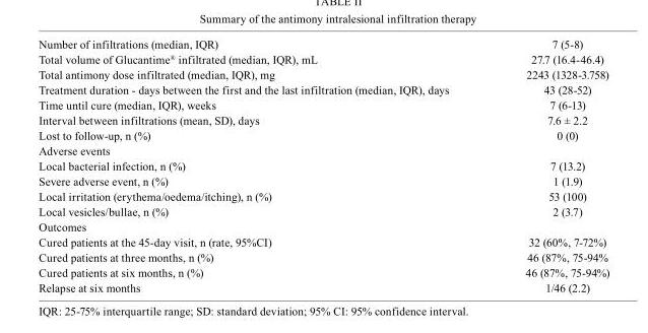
<table><tbody><tr><td>Number of infiltrations (median, IQR)</td><td>7 (5-8)</td></tr><tr><td>Total volume of Glucantime<sup>®</sup> infiltrated (median, IQR), mL</td><td>27.7 (16.4-46.4)</td></tr><tr><td>Total antimony dose infiltrated (median, IQR), mg</td><td>2243 (1328-3.758)</td></tr><tr><td>Treatment duration - days between the first and the last infiltration (median, IQR), days</td><td>43 (28-52)</td></tr><tr><td>Time until cure (median, IQR), weeks</td><td>7 (6-13)</td></tr><tr><td>Interval between infiltrations (mean, SD), days</td><td>7.6 ± 2.2</td></tr><tr><td>Lost to follow-up, n (%)</td><td>0 (0)</td></tr><tr><td colspan="2">Adverse events</td></tr><tr><td>Local bacterial infection, n (%)</td><td>7 (13.2)</td></tr><tr><td>Severe adverse event, n (%)</td><td>1 (1.9)</td></tr><tr><td>Local irritation (erythema/oedema/itching), n (%)</td><td>53 (100)</td></tr><tr><td>Local vesicles/bullae, n (%)</td><td>2 (3.7)</td></tr><tr><td colspan="2">Outcomes</td></tr><tr><td>Cured patients at the 45-day visit, n (rate, 95%CI)</td><td>32 (60%, 7-72%)</td></tr><tr><td>Cured patients at three months, n (%)</td><td>46 (87%, 75-94%</td></tr><tr><td>Cured patients at six months, n (%)</td><td>46 (87%, 75-94%)</td></tr><tr><td>Relapse at six months</td><td>1/46 (2.2)</td></tr></tbody></table>